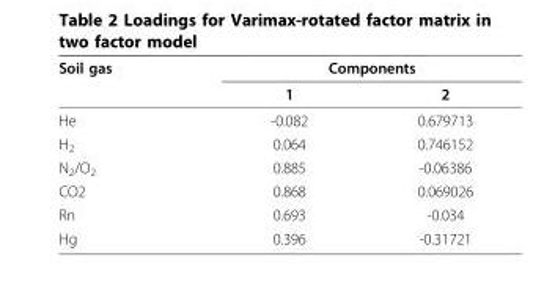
<table><thead><tr><td rowspan="2">Soil gas</td><td colspan="2">Components</td></tr><tr><td>1</td><td>2</td></tr></thead><tbody><tr><td>He</td><td>-0.082</td><td>0.679713</td></tr><tr><td>H<sub>2</sub></td><td>0.064</td><td>0.746152</td></tr><tr><td>N<sub>2</sub>/O<sub>2</sub></td><td>0.885</td><td>-0.06386</td></tr><tr><td>CO2</td><td>0.868</td><td>0.069026</td></tr><tr><td>Rn</td><td>0.693</td><td>-0.034</td></tr><tr><td>Hg</td><td>0.396</td><td>-0.31721</td></tr></tbody></table>